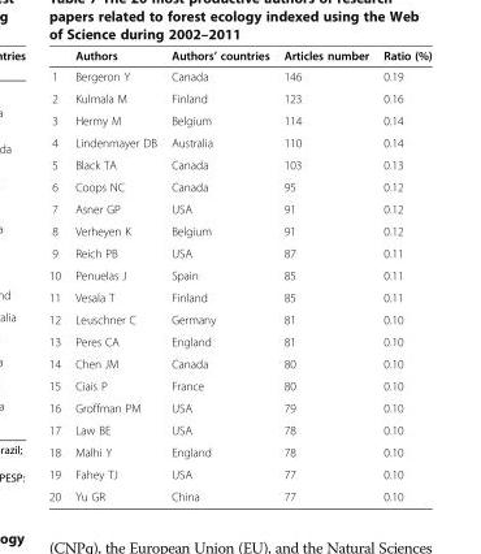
<table><thead><tr><td></td><td>Authors</td><td>Authors’ countries</td><td>Articles number</td><td>Ratio (%)</td></tr></thead><tbody><tr><td>1</td><td>Bergeron Y</td><td>Canada</td><td>146</td><td>0.19</td></tr><tr><td>2</td><td>Kulmala M</td><td>Finland</td><td>123</td><td>0.16</td></tr><tr><td>3</td><td>Hermy M</td><td>Belgium</td><td>114</td><td>0.14</td></tr><tr><td>4</td><td>Lindenmayer DB</td><td>Australia</td><td>110</td><td>0.14</td></tr><tr><td>5</td><td>Black TA</td><td>Canada</td><td>103</td><td>0.13</td></tr><tr><td>6</td><td>Coops NC</td><td>Canada</td><td>95</td><td>0.12</td></tr><tr><td>7</td><td>Asner GP</td><td>USA</td><td>91</td><td>0.12</td></tr><tr><td>8</td><td>Verheyen K</td><td>Belgium</td><td>91</td><td>0.12</td></tr><tr><td>9</td><td>Reich PB</td><td>USA</td><td>87</td><td>0.11</td></tr><tr><td>10</td><td>Penuelas J</td><td>Spain</td><td>85</td><td>0.11</td></tr><tr><td>11</td><td>Vesala T</td><td>Finland</td><td>85</td><td>0.11</td></tr><tr><td>12</td><td>Leuschner C</td><td>Germany</td><td>81</td><td>0.10</td></tr><tr><td>13</td><td>Peres CA</td><td>England</td><td>81</td><td>0.10</td></tr><tr><td>14</td><td>Chen JM</td><td>Canada</td><td>80</td><td>0.10</td></tr><tr><td>15</td><td>Ciais P</td><td>France</td><td>80</td><td>0.10</td></tr><tr><td>16</td><td>Groffman PM</td><td>USA</td><td>79</td><td>0.10</td></tr><tr><td>17</td><td>Law BE</td><td>USA</td><td>78</td><td>0.10</td></tr><tr><td>18</td><td>Malhi Y</td><td>England</td><td>78</td><td>0.10</td></tr><tr><td>19</td><td>Fahey TJ</td><td>USA</td><td>77</td><td>0.10</td></tr><tr><td>20</td><td>Yu GR</td><td>China</td><td>77</td><td>0.10</td></tr></tbody></table>